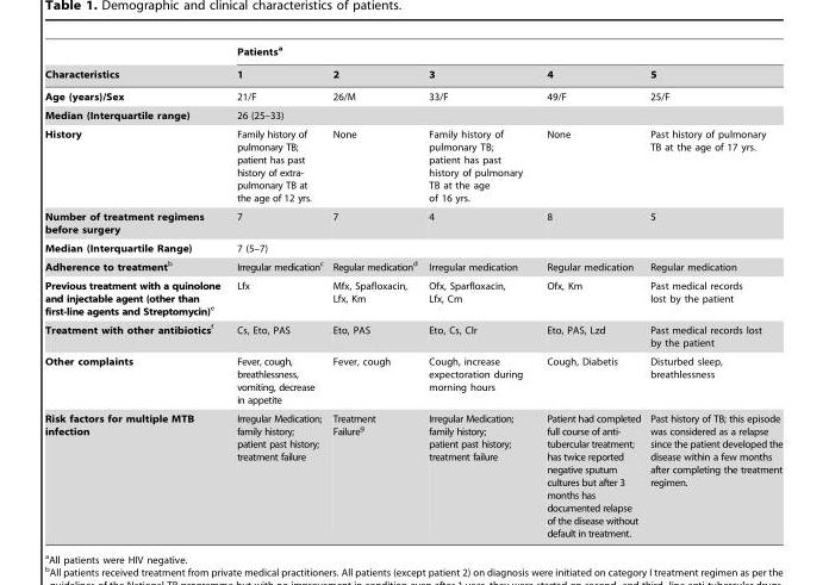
<table><thead><tr><td rowspan="2">Characteristics</td><td colspan="5">Patients<sup>a</sup></td></tr><tr><td>1</td><td>2</td><td>3</td><td>4</td><td>5</td></tr></thead><tbody><tr><td>Age (years)/Sex</td><td>21/F</td><td>26/M</td><td>33/F</td><td>49/F</td><td>25/F</td></tr><tr><td>Median (Interquartile range)</td><td colspan="5">26 (25–33)</td></tr><tr><td>History</td><td>Family history of pulmonary TB; patient has past history of extra- pulmonary TB at the age of 12 yrs.</td><td>None</td><td>Family history of pulmonary TB; patient has past history of pulmonary TB at the age of 16 yrs.</td><td>None</td><td>Past history of pulmonary TB at the age of 17 yrs.</td></tr><tr><td>Number of treatment regimens before surgery</td><td>7</td><td>7</td><td>4</td><td>8</td><td>5</td></tr><tr><td>Median (Interquartile Range)</td><td colspan="5">7 (5–7)</td></tr><tr><td>Adherence to treatmentb</td><td>Irregular medication<sup>c</sup></td><td>Regular medication<sup>d</sup></td><td>Irregular medication</td><td>Regular medication</td><td>Regular medication</td></tr><tr><td>Previous treatment with a quinolone and injectable agent (other than first-line agents and Streptomycin)e</td><td>Lfx</td><td>Mfx, Spafloxacin, Lfx, Km</td><td>Ofx, Sparfloxacin, Lfx, Cm</td><td>Ofx, Km</td><td>Past medical records lost by the patient</td></tr><tr><td>Treatment with other antibioticsf</td><td>Cs, Eto, PAS</td><td>Eto, PAS</td><td>Eto, Cs, Clr</td><td>Eto, PAS, Lzd</td><td>Past medical records lost by the patient</td></tr><tr><td>Other complaints</td><td>Fever, cough, breathlessness, vomiting, decrease in appetite</td><td>Fever, cough</td><td>Cough, increase expectoration during morning hours</td><td>Cough, Diabetis</td><td>Disturbed sleep, breathlessness</td></tr><tr><td>Risk factors for multiple MTB infection</td><td>Irregular Medication; family history; patient past history; treatment failure</td><td>Treatment Failure<sup>g</sup></td><td>Irregular Medication; family history; patient past history; treatment failure</td><td>Patient had completed full course of anti- tubercular treatment; has twice reported negative sputum cultures but after 3 months has documented relapse of the disease without default in treatment.</td><td>Past history of TB; this episode was considered as a relapse since the patient developed the disease within a few months after completing the treatment regimen.</td></tr></tbody></table>